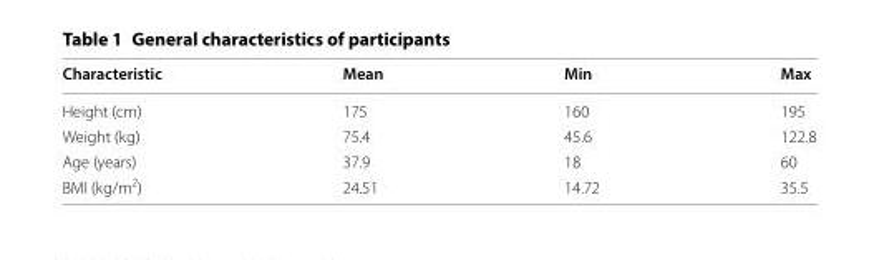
<table><thead><tr><td>Characteristic</td><td>Mean</td><td>Min</td><td>Max</td></tr></thead><tbody><tr><td>Height (cm)</td><td>175</td><td>160</td><td>195</td></tr><tr><td>Weight (kg)</td><td>75.4</td><td>45.6</td><td>122.8</td></tr><tr><td>Age (years)</td><td>37.9</td><td>18</td><td>60</td></tr><tr><td>BMI (kg/m<sup>2</sup>)</td><td>24.51</td><td>14.72</td><td>35.5</td></tr></tbody></table>